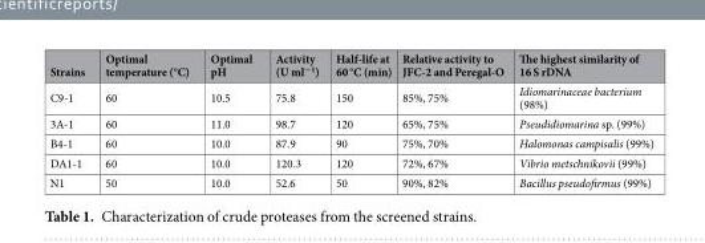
<table><thead><tr><td>Strains</td><td>Optimal temperature (°C)</td><td>Optimal pH</td><td>Activity (U ml<sup>−1</sup>)</td><td>Half-life at 60 °C (min)</td><td>Relative activity to JFC-2 and Peregal-O</td><td>The highest similarity of 16 S rDNA</td></tr></thead><tbody><tr><td>C9-1</td><td>60</td><td>10.5</td><td>75.8</td><td>150</td><td>85%, 75%</td><td>Idiomarinaceae bacterium (98%)</td></tr><tr><td>3A-1</td><td>60</td><td>11.0</td><td>98.7</td><td>120</td><td>65%, 75%</td><td>Pseudidiomarina sp. (99%)</td></tr><tr><td>B4-1</td><td>60</td><td>10.0</td><td>87.9</td><td>90</td><td>75%, 70%</td><td>Halomonas campisalis (99%)</td></tr><tr><td>DA1-1</td><td>60</td><td>10.0</td><td>120.3</td><td>120</td><td>72%, 67%</td><td>Vibrio metschnikovii (99%)</td></tr><tr><td>N1</td><td>50</td><td>10.0</td><td>52.6</td><td>50</td><td>90%, 82%</td><td>Bacillus pseudofirmus (99%)</td></tr></tbody></table>